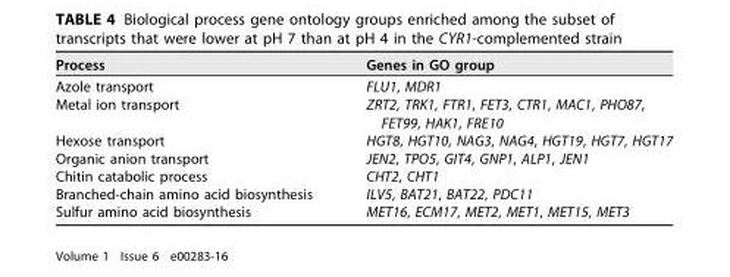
<table><thead><tr><td>Process</td><td>Genes in GO group</td></tr></thead><tbody><tr><td>Azole transport</td><td>FLU1, MDR1</td></tr><tr><td>Metal ion transport</td><td>ZRT2, TRK1, FTR1, FET3, CTR1, MAC1, PHO87, FET99, HAK1, FRE10</td></tr><tr><td>Hexose transport</td><td>HGT8, HGT10, NAG3, NAG4, HGT19, HGT7, HGT17</td></tr><tr><td>Organic anion transport</td><td>JEN2, TPO5, GIT4, GNP1, ALP1, JEN1</td></tr><tr><td>Chitin catabolic process</td><td>CHT2, CHT1</td></tr><tr><td>Branched-chain amino acid biosynthesis</td><td>ILV5, BAT21, BAT22, PDC11</td></tr><tr><td>Sulfur amino acid biosynthesis</td><td>MET16, ECM17, MET2, MET1, MET15, MET3</td></tr></tbody></table>